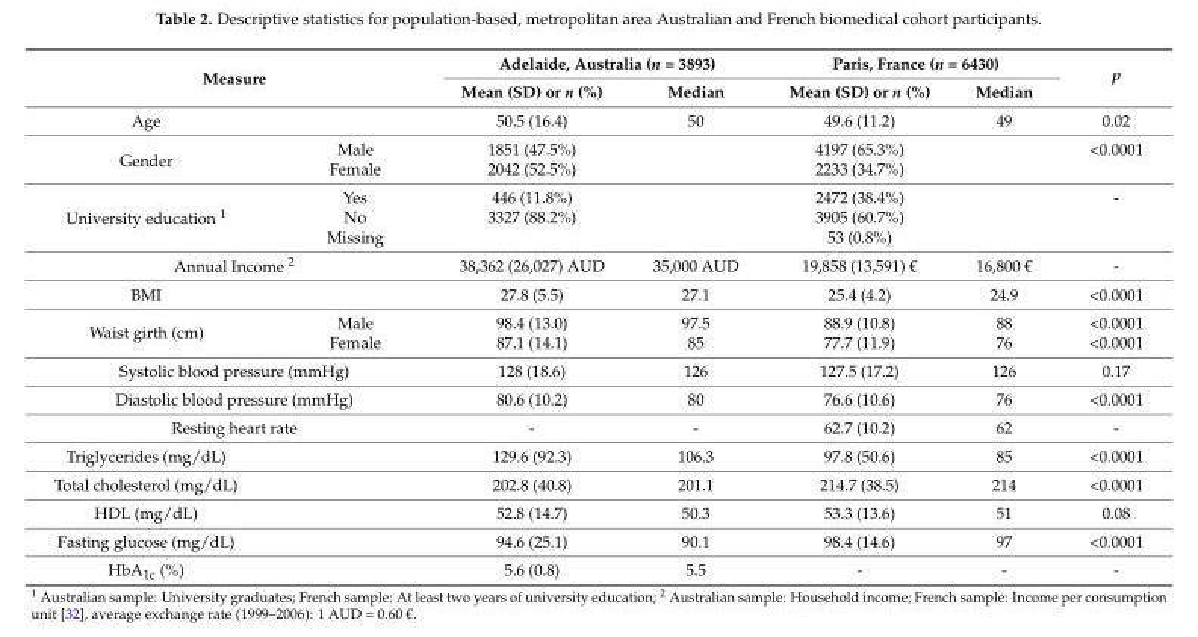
<table><thead><tr><td rowspan="2" colspan="2">Measure</td><td colspan="2">Adelaide, Australia (n = 3893)</td><td colspan="2">Paris, France (n = 6430)</td><td rowspan="3">p 0.02</td></tr><tr><td rowspan="2">Mean (SD) or n (%) 50.5 (16.4)</td><td rowspan="2">Median 50</td><td rowspan="2">Mean (SD) or n (%) 49.6 (11.2)</td><td rowspan="2">Median 49</td></tr><tr><td>Age</td><td></td></tr></thead><tbody><tr><td rowspan="2">Gender</td><td>Male</td><td>1851 (47.5%)</td><td></td><td>4197 (65.3%)</td><td></td><td>&lt;0.0001</td></tr><tr><td>Female</td><td>2042 (52.5%)</td><td></td><td>2233 (34.7%)</td><td></td><td></td></tr><tr><td rowspan="3">University education <sup>1</sup></td><td>Yes</td><td>446 (11.8%)</td><td></td><td>2472 (38.4%)</td><td></td><td>-</td></tr><tr><td>No</td><td>3327 (88.2%)</td><td></td><td>3905 (60.7%)</td><td></td><td></td></tr><tr><td>Missing</td><td></td><td></td><td>53 (0.8%)</td><td></td><td></td></tr><tr><td colspan="2">Annual Income <sup>2</sup></td><td>38,362 (26,027) AUD</td><td>35,000 AUD</td><td>19,858 (13,591) €</td><td>16,800 €</td><td>-</td></tr><tr><td>BMI</td><td></td><td>27.8 (5.5)</td><td>27.1</td><td>25.4 (4.2)</td><td>24.9</td><td>&lt;0.0001</td></tr><tr><td rowspan="2">Waist girth (cm)</td><td>Male</td><td>98.4 (13.0)</td><td>97.5</td><td>88.9 (10.8)</td><td>88</td><td>&lt;0.0001</td></tr><tr><td>Female</td><td>87.1 (14.1)</td><td>85</td><td>77.7 (11.9)</td><td>76</td><td>&lt;0.0001</td></tr><tr><td colspan="2">Systolic blood pressure (mmHg)</td><td>128 (18.6)</td><td>126</td><td>127.5 (17.2)</td><td>126</td><td>0.17</td></tr><tr><td colspan="2">Diastolic blood pressure (mmHg)</td><td>80.6 (10.2)</td><td>80</td><td>76.6 (10.6)</td><td>76</td><td>&lt;0.0001</td></tr><tr><td colspan="2">Resting heart rate</td><td>-</td><td>-</td><td>62.7 (10.2)</td><td>62</td><td>-</td></tr><tr><td>Triglycerides (mg/dL)</td><td></td><td>129.6 (92.3)</td><td>106.3</td><td>97.8 (50.6)</td><td>85</td><td>&lt;0.0001</td></tr><tr><td>Total cholesterol (mg/dL)</td><td></td><td>202.8 (40.8)</td><td>201.1</td><td>214.7 (38.5)</td><td>214</td><td>&lt;0.0001</td></tr><tr><td>HDL (mg/dL)</td><td></td><td>52.8 (14.7)</td><td>50.3</td><td>53.3 (13.6)</td><td>51</td><td>0.08</td></tr><tr><td>Fasting glucose (mg/dL)</td><td></td><td>94.6 (25.1)</td><td>90.1</td><td>98.4 (14.6)</td><td>97</td><td>&lt;0.0001</td></tr><tr><td>HbA<sub>1c</sub> (%)</td><td></td><td>5.6 (0.8)</td><td>5.5</td><td>-</td><td>-</td><td>-</td></tr></tbody></table>